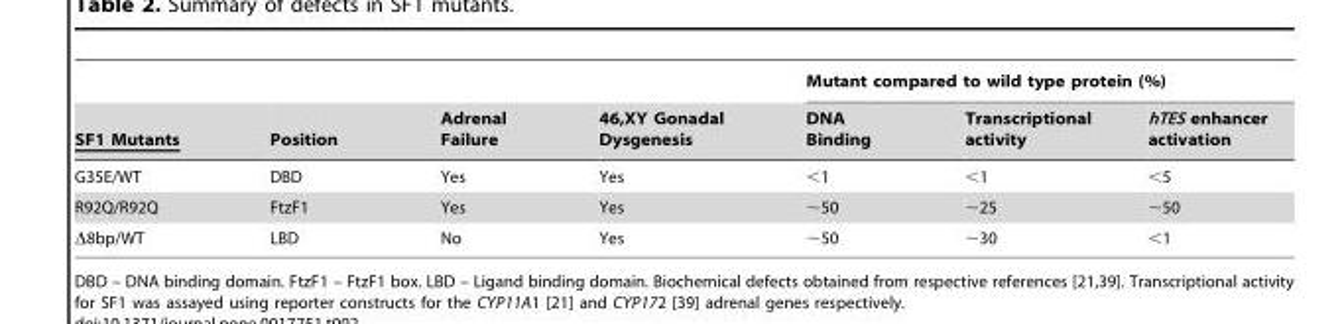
<table><thead><tr><td rowspan="2">SF1 Mutants</td><td rowspan="2">Position</td><td rowspan="2">Adrenal Failure</td><td rowspan="2">46,XY Gonadal Dysgenesis</td><td colspan="3">Mutant compared to wild type protein (%)</td></tr><tr><td>DNA Binding</td><td>Transcriptional activity</td><td>hTES enhancer activation</td></tr></thead><tbody><tr><td>G35E/WT</td><td>DBD</td><td>Yes</td><td>Yes</td><td>&lt;1</td><td>&lt;1</td><td>&lt;5</td></tr><tr><td>R92Q/R92Q</td><td>FtzF1</td><td>Yes</td><td>Yes</td><td>∼50</td><td>∼25</td><td>∼50</td></tr><tr><td>Δ8bp/WT</td><td>LBD</td><td>No</td><td>Yes</td><td>∼50</td><td>∼30</td><td>&lt;1</td></tr></tbody></table>